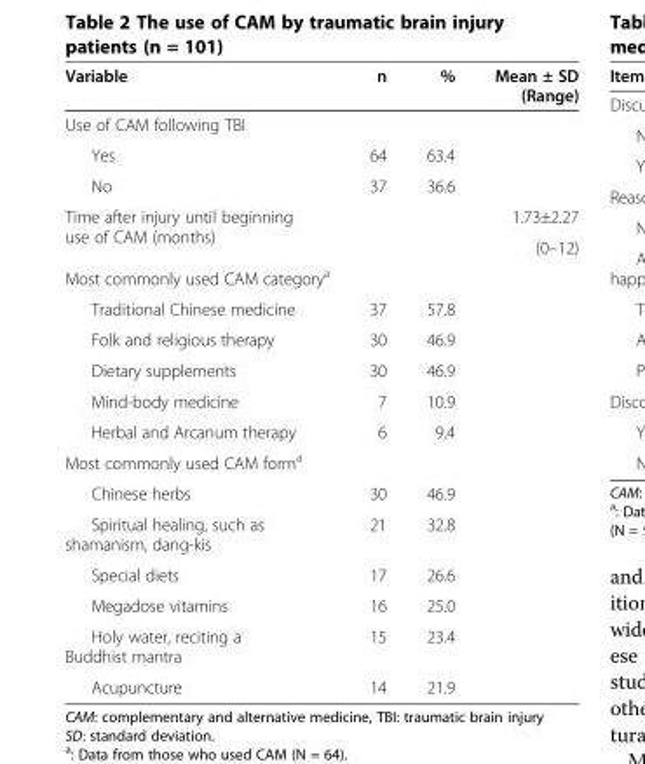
<table><thead><tr><td>Variable</td><td>n</td><td>%</td><td>Mean ± SD (Range)</td></tr></thead><tbody><tr><td colspan="4">Use of CAM following TBI</td></tr><tr><td>Yes</td><td>64</td><td>63.4</td><td></td></tr><tr><td>No</td><td>37</td><td>36.6</td><td></td></tr><tr><td rowspan="2">Time after injury until beginning use of CAM (months)</td><td rowspan="2"></td><td rowspan="2"></td><td>1.73±2.27</td></tr><tr><td>(0–12)</td></tr><tr><td colspan="4">Most commonly used CAM category<sup>a</sup></td></tr><tr><td>Traditional Chinese medicine</td><td>37</td><td>57.8</td><td></td></tr><tr><td>Folk and religious therapy</td><td>30</td><td>46.9</td><td></td></tr><tr><td>Dietary supplements</td><td>30</td><td>46.9</td><td></td></tr><tr><td>Mind-body medicine</td><td>7</td><td>10.9</td><td></td></tr><tr><td>Herbal and Arcanum therapy</td><td>6</td><td>9.4</td><td></td></tr><tr><td colspan="4">Most commonly used CAM form<sup>a</sup></td></tr><tr><td>Chinese herbs</td><td>30</td><td>46.9</td><td></td></tr><tr><td>Spiritual healing, such as shamanism, dang-kis</td><td>21</td><td>32.8</td><td></td></tr><tr><td>Special diets</td><td>17</td><td>26.6</td><td></td></tr><tr><td>Megadose vitamins</td><td>16</td><td>25.0</td><td></td></tr><tr><td>Holy water, reciting a Buddhist mantra</td><td>15</td><td>23.4</td><td></td></tr><tr><td>Acupuncture</td><td>14</td><td>21.9</td><td></td></tr></tbody></table>